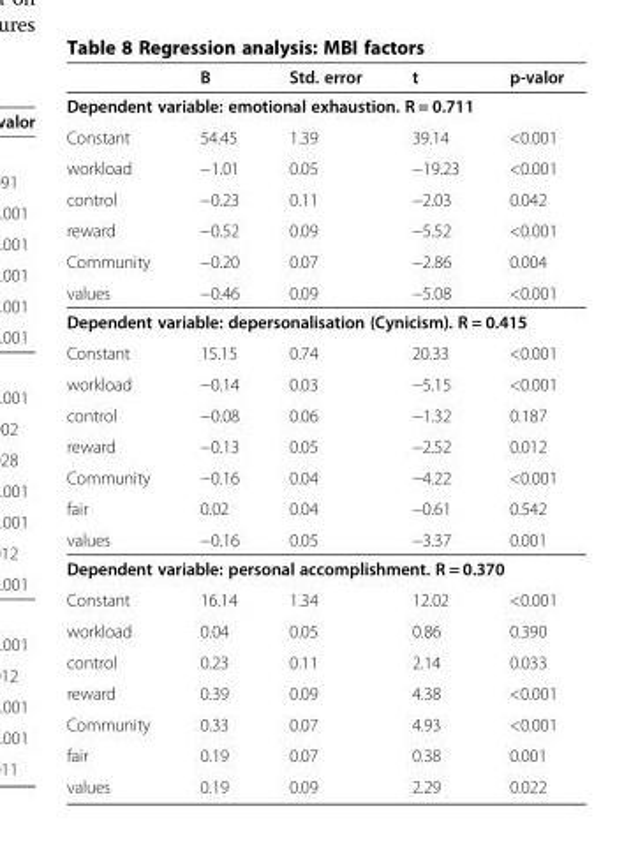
<table><thead><tr><td></td><td>B</td><td>Std. error</td><td>t</td><td>p-valor</td></tr></thead><tbody><tr><td colspan="5">Dependent variable: emotional exhaustion. R = 0.711</td></tr><tr><td>Constant</td><td>54.45</td><td>1.39</td><td>39.14</td><td>&lt;0.001</td></tr><tr><td>workload</td><td>−1.01</td><td>0.05</td><td>−19.23</td><td>&lt;0.001</td></tr><tr><td>control</td><td>−0.23</td><td>0.11</td><td>−2.03</td><td>0.042</td></tr><tr><td>reward</td><td>−0.52</td><td>0.09</td><td>−5.52</td><td>&lt;0.001</td></tr><tr><td>Community</td><td>−0.20</td><td>0.07</td><td>−2.86</td><td>0.004</td></tr><tr><td>values</td><td>−0.46</td><td>0.09</td><td>−5.08</td><td>&lt;0.001</td></tr><tr><td colspan="5">Dependent variable: depersonalisation (Cynicism). R = 0.415</td></tr><tr><td>Constant</td><td>15.15</td><td>0.74</td><td>20.33</td><td>&lt;0.001</td></tr><tr><td>workload</td><td>−0.14</td><td>0.03</td><td>−5.15</td><td>&lt;0.001</td></tr><tr><td>control</td><td>−0.08</td><td>0.06</td><td>−1.32</td><td>0.187</td></tr><tr><td>reward</td><td>−0.13</td><td>0.05</td><td>−2.52</td><td>0.012</td></tr><tr><td>Community</td><td>−0.16</td><td>0.04</td><td>−4.22</td><td>&lt;0.001</td></tr><tr><td>fair</td><td>0.02</td><td>0.04</td><td>−0.61</td><td>0.542</td></tr><tr><td>values</td><td>−0.16</td><td>0.05</td><td>−3.37</td><td>0.001</td></tr><tr><td colspan="5">Dependent variable: personal accomplishment. R = 0.370</td></tr><tr><td>Constant</td><td>16.14</td><td>1.34</td><td>12.02</td><td>&lt;0.001</td></tr><tr><td>workload</td><td>0.04</td><td>0.05</td><td>0.86</td><td>0.390</td></tr><tr><td>control</td><td>0.23</td><td>0.11</td><td>2.14</td><td>0.033</td></tr><tr><td>reward</td><td>0.39</td><td>0.09</td><td>4.38</td><td>&lt;0.001</td></tr><tr><td>Community</td><td>0.33</td><td>0.07</td><td>4.93</td><td>&lt;0.001</td></tr><tr><td>fair</td><td>0.19</td><td>0.07</td><td>0.38</td><td>0.001</td></tr><tr><td>values</td><td>0.19</td><td>0.09</td><td>2.29</td><td>0.022</td></tr></tbody></table>